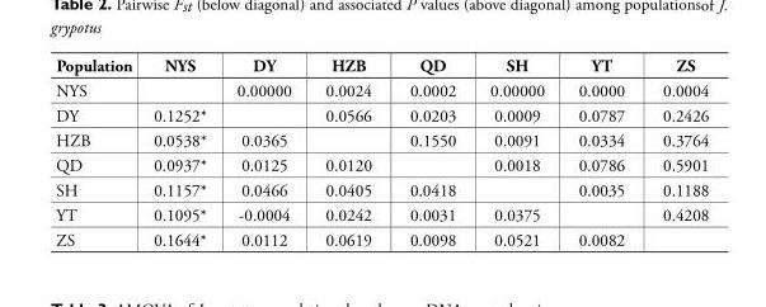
<table><thead><tr><td>Population</td><td>NYS</td><td>DY</td><td>HZB</td><td>QD</td><td>SH</td><td>YT</td><td>ZS</td></tr></thead><tbody><tr><td>NYS</td><td></td><td>0.00000</td><td>0.0024</td><td>0.0002</td><td>0.00000</td><td>0.0000</td><td>0.0004</td></tr><tr><td>DY</td><td>0.1252*</td><td></td><td>0.0566</td><td>0.0203</td><td>0.0009</td><td>0.0787</td><td>0.2426</td></tr><tr><td>HZB</td><td>0.0538*</td><td>0.0365</td><td></td><td>0.1550</td><td>0.0091</td><td>0.0334</td><td>0.3764</td></tr><tr><td>QD</td><td>0.0937*</td><td>0.0125</td><td>0.0120</td><td></td><td>0.0018</td><td>0.0786</td><td>0.5901</td></tr><tr><td>SH</td><td>0.1157*</td><td>0.0466</td><td>0.0405</td><td>0.0418</td><td></td><td>0.0035</td><td>0.1188</td></tr><tr><td>YT</td><td>0.1095*</td><td>-0.0004</td><td>0.0242</td><td>0.0031</td><td>0.0375</td><td></td><td>0.4208</td></tr><tr><td>ZS</td><td>0.1644*</td><td>0.0112</td><td>0.0619</td><td>0.0098</td><td>0.0521</td><td>0.0082</td><td></td></tr></tbody></table>